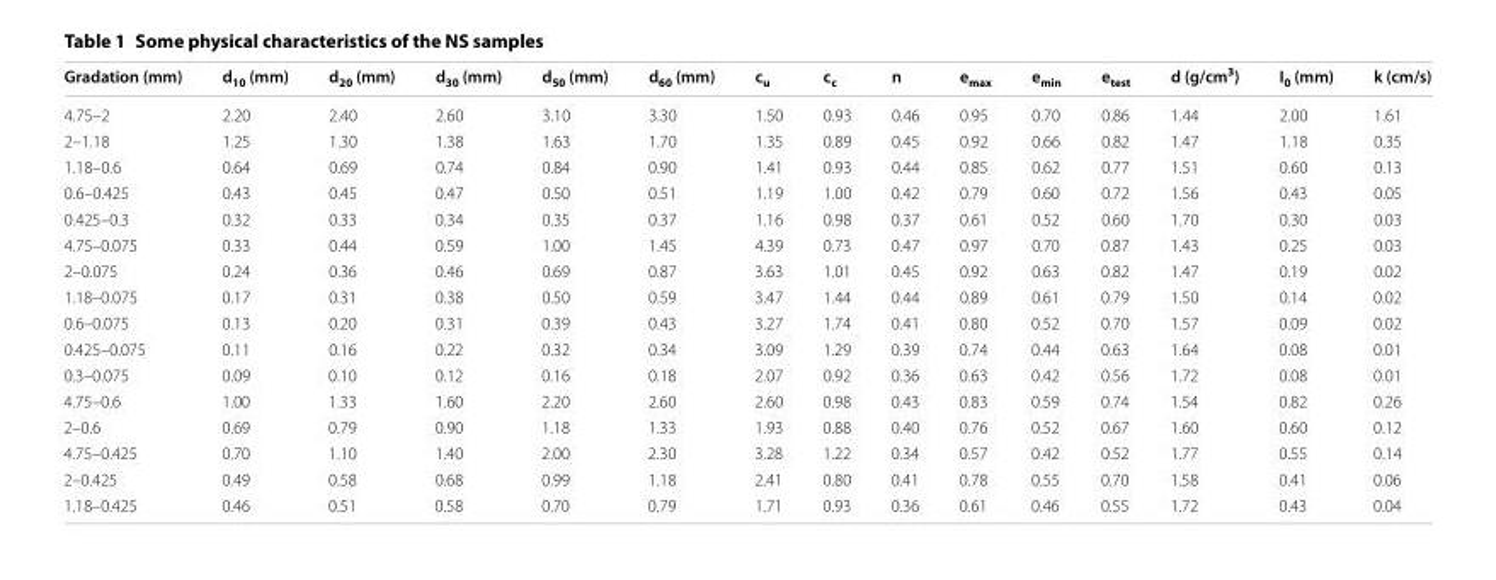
<table><thead><tr><td>Gradation (mm)</td><td>d<sub>10</sub> (mm)</td><td>d<sub>20</sub> (mm)</td><td>d<sub>30</sub> (mm)</td><td>d<sub>50</sub> (mm)</td><td>d<sub>60</sub> (mm)</td><td>c<sub>u</sub></td><td>c<sub>c</sub></td><td>n</td><td>e<sub>max</sub></td><td>e<sub>min</sub></td><td>e<sub>test</sub></td><td>d (g/cm<sup>3</sup>)</td><td>I<sub>0</sub> (mm)</td><td>k (cm/s)</td></tr></thead><tbody><tr><td>4.75–2</td><td>2.20</td><td>2.40</td><td>2.60</td><td>3.10</td><td>3.30</td><td>1.50</td><td>0.93</td><td>0.46</td><td>0.95</td><td>0.70</td><td>0.86</td><td>1.44</td><td>2.00</td><td>1.61</td></tr><tr><td>2–1.18</td><td>1.25</td><td>1.30</td><td>1.38</td><td>1.63</td><td>1.70</td><td>1.35</td><td>0.89</td><td>0.45</td><td>0.92</td><td>0.66</td><td>0.82</td><td>1.47</td><td>1.18</td><td>0.35</td></tr><tr><td>1.18–0.6</td><td>0.64</td><td>0.69</td><td>0.74</td><td>0.84</td><td>0.90</td><td>1.41</td><td>0.93</td><td>0.44</td><td>0.85</td><td>0.62</td><td>0.77</td><td>1.51</td><td>0.60</td><td>0.13</td></tr><tr><td>0.6–0.425</td><td>0.43</td><td>0.45</td><td>0.47</td><td>0.50</td><td>0.51</td><td>1.19</td><td>1.00</td><td>0.42</td><td>0.79</td><td>0.60</td><td>0.72</td><td>1.56</td><td>0.43</td><td>0.05</td></tr><tr><td>0.425–0.3</td><td>0.32</td><td>0.33</td><td>0.34</td><td>0.35</td><td>0.37</td><td>1.16</td><td>0.98</td><td>0.37</td><td>0.61</td><td>0.52</td><td>0.60</td><td>1.70</td><td>0.30</td><td>0.03</td></tr><tr><td>4.75–0.075</td><td>0.33</td><td>0.44</td><td>0.59</td><td>1.00</td><td>1.45</td><td>4.39</td><td>0.73</td><td>0.47</td><td>0.97</td><td>0.70</td><td>0.87</td><td>1.43</td><td>0.25</td><td>0.03</td></tr><tr><td>2–0.075</td><td>0.24</td><td>0.36</td><td>0.46</td><td>0.69</td><td>0.87</td><td>3.63</td><td>1.01</td><td>0.45</td><td>0.92</td><td>0.63</td><td>0.82</td><td>1.47</td><td>0.19</td><td>0.02</td></tr><tr><td>1.18–0.075</td><td>0.17</td><td>0.31</td><td>0.38</td><td>0.50</td><td>0.59</td><td>3.47</td><td>1.44</td><td>0.44</td><td>0.89</td><td>0.61</td><td>0.79</td><td>1.50</td><td>0.14</td><td>0.02</td></tr><tr><td>0.6–0.075</td><td>0.13</td><td>0.20</td><td>0.31</td><td>0.39</td><td>0.43</td><td>3.27</td><td>1.74</td><td>0.41</td><td>0.80</td><td>0.52</td><td>0.70</td><td>1.57</td><td>0.09</td><td>0.02</td></tr><tr><td>0.425–0.075</td><td>0.11</td><td>0.16</td><td>0.22</td><td>0.32</td><td>0.34</td><td>3.09</td><td>1.29</td><td>0.39</td><td>0.74</td><td>0.44</td><td>0.63</td><td>1.64</td><td>0.08</td><td>0.01</td></tr><tr><td>0.3–0.075</td><td>0.09</td><td>0.10</td><td>0.12</td><td>0.16</td><td>0.18</td><td>2.07</td><td>0.92</td><td>0.36</td><td>0.63</td><td>0.42</td><td>0.56</td><td>1.72</td><td>0.08</td><td>0.01</td></tr><tr><td>4.75–0.6</td><td>1.00</td><td>1.33</td><td>1.60</td><td>2.20</td><td>2.60</td><td>2.60</td><td>0.98</td><td>0.43</td><td>0.83</td><td>0.59</td><td>0.74</td><td>1.54</td><td>0.82</td><td>0.26</td></tr><tr><td>2–0.6</td><td>0.69</td><td>0.79</td><td>0.90</td><td>1.18</td><td>1.33</td><td>1.93</td><td>0.88</td><td>0.40</td><td>0.76</td><td>0.52</td><td>0.67</td><td>1.60</td><td>0.60</td><td>0.12</td></tr><tr><td>4.75–0.425</td><td>0.70</td><td>1.10</td><td>1.40</td><td>2.00</td><td>2.30</td><td>3.28</td><td>1.22</td><td>0.34</td><td>0.57</td><td>0.42</td><td>0.52</td><td>1.77</td><td>0.55</td><td>0.14</td></tr><tr><td>2–0.425</td><td>0.49</td><td>0.58</td><td>0.68</td><td>0.99</td><td>1.18</td><td>2.41</td><td>0.80</td><td>0.41</td><td>0.78</td><td>0.55</td><td>0.70</td><td>1.58</td><td>0.41</td><td>0.06</td></tr><tr><td>1.18–0.425</td><td>0.46</td><td>0.51</td><td>0.58</td><td>0.70</td><td>0.79</td><td>1.71</td><td>0.93</td><td>0.36</td><td>0.61</td><td>0.46</td><td>0.55</td><td>1.72</td><td>0.43</td><td>0.04</td></tr></tbody></table>